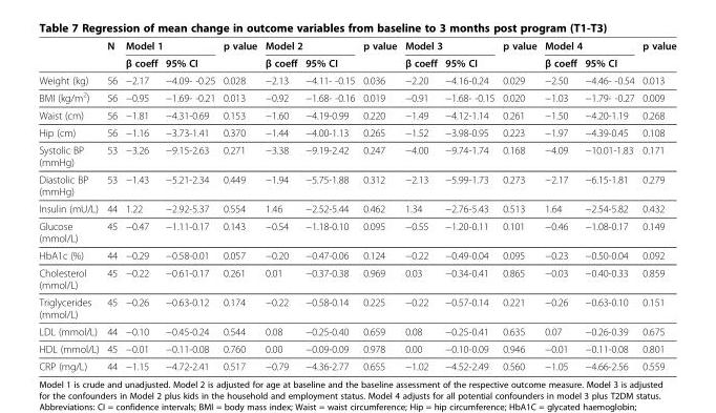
<table><thead><tr><td rowspan="2"></td><td rowspan="2">N</td><td colspan="2">Model 1</td><td rowspan="2">p value</td><td colspan="2">Model 2</td><td rowspan="2">p value</td><td colspan="2">Model 3</td><td rowspan="2">p value</td><td colspan="2">Model 4</td><td rowspan="2">p value</td></tr><tr><td>β coeff</td><td>95% CI</td><td>β coeff</td><td>95% CI</td><td>β coeff</td><td>95% CI</td><td>β coeff</td><td>95% CI</td></tr></thead><tbody><tr><td>Weight (kg)</td><td>56</td><td>−2.17</td><td>−4.09- -0.25</td><td>0.028</td><td>−2.13</td><td>−4.11- -0.15</td><td>0.036</td><td>−2.20</td><td>−4.16-0.24</td><td>0.029</td><td>−2.50</td><td>−4.46- -0.54</td><td>0.013</td></tr><tr><td>BMI (kg/m<sup>2</sup>)</td><td>56</td><td>−0.95</td><td>−1.69- -0.21</td><td>0.013</td><td>−0.92</td><td>−1.68- -0.16</td><td>0.019</td><td>−0.91</td><td>−1.68- -0.15</td><td>0.020</td><td>−1.03</td><td>−1.79- -0.27</td><td>0.009</td></tr><tr><td>Waist (cm)</td><td>56</td><td>−1.81</td><td>−4.31-0.69</td><td>0.153</td><td>−1.60</td><td>−4.19-0.99</td><td>0.220</td><td>−1.49</td><td>−4.12-1.14</td><td>0.261</td><td>−1.50</td><td>−4.20-1.19</td><td>0.268</td></tr><tr><td>Hip (cm)</td><td>56</td><td>−1.16</td><td>−3.73-1.41</td><td>0.370</td><td>−1.44</td><td>−4.00-1.13</td><td>0.265</td><td>−1.52</td><td>−3.98-0.95</td><td>0.223</td><td>−1.97</td><td>−4.39-0.45</td><td>0.108</td></tr><tr><td>Systolic BP (mmHg)</td><td>53</td><td>−3.26</td><td>−9.15-2.63</td><td>0.271</td><td>−3.38</td><td>−9.19-2.42</td><td>0.247</td><td>−4.00</td><td>−9.74-1.74</td><td>0.168</td><td>−4.09</td><td>−10.01-1.83</td><td>0.171</td></tr><tr><td>Diastolic BP (mmHg)</td><td>53</td><td>−1.43</td><td>−5.21-2.34</td><td>0.449</td><td>−1.94</td><td>−5.75-1.88</td><td>0.312</td><td>−2.13</td><td>−5.99-1.73</td><td>0.273</td><td>−2.17</td><td>−6.15-1.81</td><td>0.279</td></tr><tr><td>Insulin (mU/L)</td><td>44</td><td>1.22</td><td>−2.92-5.37</td><td>0.554</td><td>1.46</td><td>−2.52-5.44</td><td>0.462</td><td>1.34</td><td>−2.76-5.43</td><td>0.513</td><td>1.64</td><td>−2.54-5.82</td><td>0.432</td></tr><tr><td>Glucose (mmol/L)</td><td>45</td><td>−0.47</td><td>−1.11-0.17</td><td>0.143</td><td>−0.54</td><td>−1.18-0.10</td><td>0.095</td><td>−0.55</td><td>−1.20-0.11</td><td>0.101</td><td>−0.46</td><td>−1.08-0.17</td><td>0.149</td></tr><tr><td>HbA1c (%)</td><td>44</td><td>−0.29</td><td>−0.58-0.01</td><td>0.057</td><td>−0.20</td><td>−0.47-0.06</td><td>0.124</td><td>−0.22</td><td>−0.49-0.04</td><td>0.095</td><td>−0.23</td><td>−0.50-0.04</td><td>0.092</td></tr><tr><td>Cholesterol (mmol/L)</td><td>45</td><td>−0.22</td><td>−0.61-0.17</td><td>0.261</td><td>0.01</td><td>−0.37-0.38</td><td>0.969</td><td>0.03</td><td>−0.34-0.41</td><td>0.865</td><td>−0.03</td><td>−0.40-0.33</td><td>0.859</td></tr><tr><td>Triglycerides (mmol/L)</td><td>45</td><td>−0.26</td><td>−0.63-0.12</td><td>0.174</td><td>−0.22</td><td>−0.58-0.14</td><td>0.225</td><td>−0.22</td><td>−0.57-0.14</td><td>0.221</td><td>−0.26</td><td>−0.63-0.10</td><td>0.151</td></tr><tr><td>LDL (mmol/L)</td><td>44</td><td>−0.10</td><td>−0.45-0.24</td><td>0.544</td><td>0.08</td><td>−0.25-0.40</td><td>0.659</td><td>0.08</td><td>−0.25-0.41</td><td>0.635</td><td>0.07</td><td>−0.26-0.39</td><td>0.675</td></tr><tr><td>HDL (mmol/L)</td><td>45</td><td>−0.01</td><td>−0.11-0.08</td><td>0.760</td><td>0.00</td><td>−0.09-0.09</td><td>0.978</td><td>0.00</td><td>−0.10-0.09</td><td>0.946</td><td>−0.01</td><td>−0.11-0.08</td><td>0.801</td></tr><tr><td>CRP (mg/L)</td><td>44</td><td>−1.15</td><td>−4.72-2.41</td><td>0.517</td><td>−0.79</td><td>−4.36-2.77</td><td>0.655</td><td>−1.02</td><td>−4.52-2.49</td><td>0.560</td><td>−1.05</td><td>−4.66-2.56</td><td>0.559</td></tr></tbody></table>